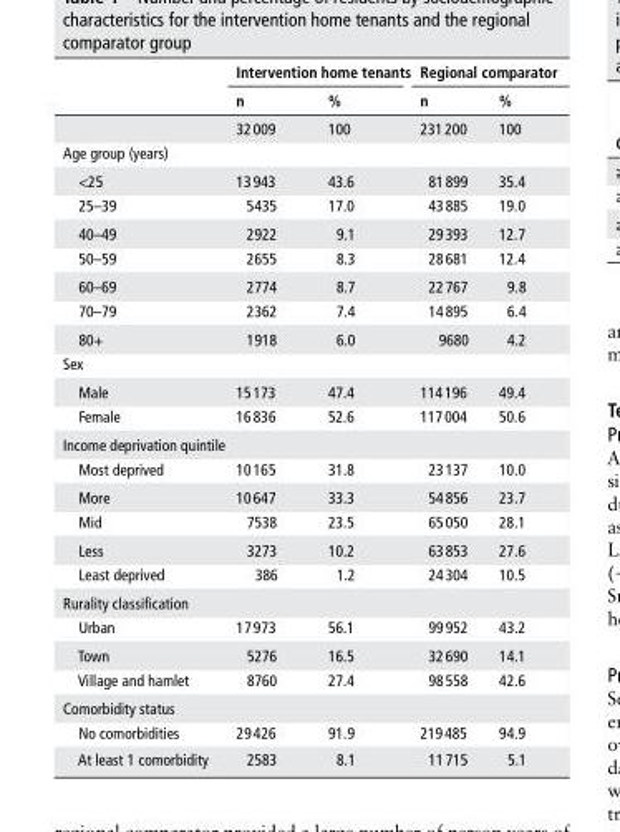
<table><thead><tr><td rowspan="2"></td><td colspan="2">Intervention home tenants</td><td colspan="2">regional comparator</td></tr><tr><td>n</td><td>%</td><td>n</td><td>%</td></tr></thead><tbody><tr><td></td><td>32 009</td><td>100</td><td>231 200</td><td>100</td></tr><tr><td colspan="5">Age group (years)</td></tr><tr><td>&lt;25</td><td>13 943</td><td>43.6</td><td>81 899</td><td>35.4</td></tr><tr><td>25–39</td><td>5435</td><td>17.0</td><td>43 885</td><td>19.0</td></tr><tr><td>40–49</td><td>2922</td><td>9.1</td><td>29 393</td><td>12.7</td></tr><tr><td>50–59</td><td>2655</td><td>8.3</td><td>28 681</td><td>12.4</td></tr><tr><td>60–69</td><td>2774</td><td>8.7</td><td>22 767</td><td>9.8</td></tr><tr><td>70–79</td><td>2362</td><td>7.4</td><td>14 895</td><td>6.4</td></tr><tr><td>80+</td><td>1918</td><td>6.0</td><td>9680</td><td>4.2</td></tr><tr><td colspan="5">Sex</td></tr><tr><td>Male</td><td>15 173</td><td>47.4</td><td>114 196</td><td>49.4</td></tr><tr><td>Female</td><td>16 836</td><td>52.6</td><td>117 004</td><td>50.6</td></tr><tr><td colspan="5">Income deprivation quintile</td></tr><tr><td>Most deprived</td><td>10 165</td><td>31.8</td><td>23 137</td><td>10.0</td></tr><tr><td>More</td><td>10 647</td><td>33.3</td><td>54 856</td><td>23.7</td></tr><tr><td>Mid</td><td>7538</td><td>23.5</td><td>65 050</td><td>28.1</td></tr><tr><td>Less</td><td>3273</td><td>10.2</td><td>63 853</td><td>27.6</td></tr><tr><td>Least deprived</td><td>386</td><td>1.2</td><td>24 304</td><td>10.5</td></tr><tr><td colspan="5">Rurality classification</td></tr><tr><td>Urban</td><td>17 973</td><td>56.1</td><td>99 952</td><td>43.2</td></tr><tr><td>Town</td><td>5276</td><td>16.5</td><td>32 690</td><td>14.1</td></tr><tr><td>Village and hamlet</td><td>8760</td><td>27.4</td><td>98 558</td><td>42.6</td></tr><tr><td colspan="5">Comorbidity status</td></tr><tr><td>No comorbidities</td><td>29 426</td><td>91.9</td><td>219 485</td><td>94.9</td></tr><tr><td>At least 1 comorbidity</td><td>2583</td><td>8.1</td><td>11 715</td><td>5.1</td></tr></tbody></table>